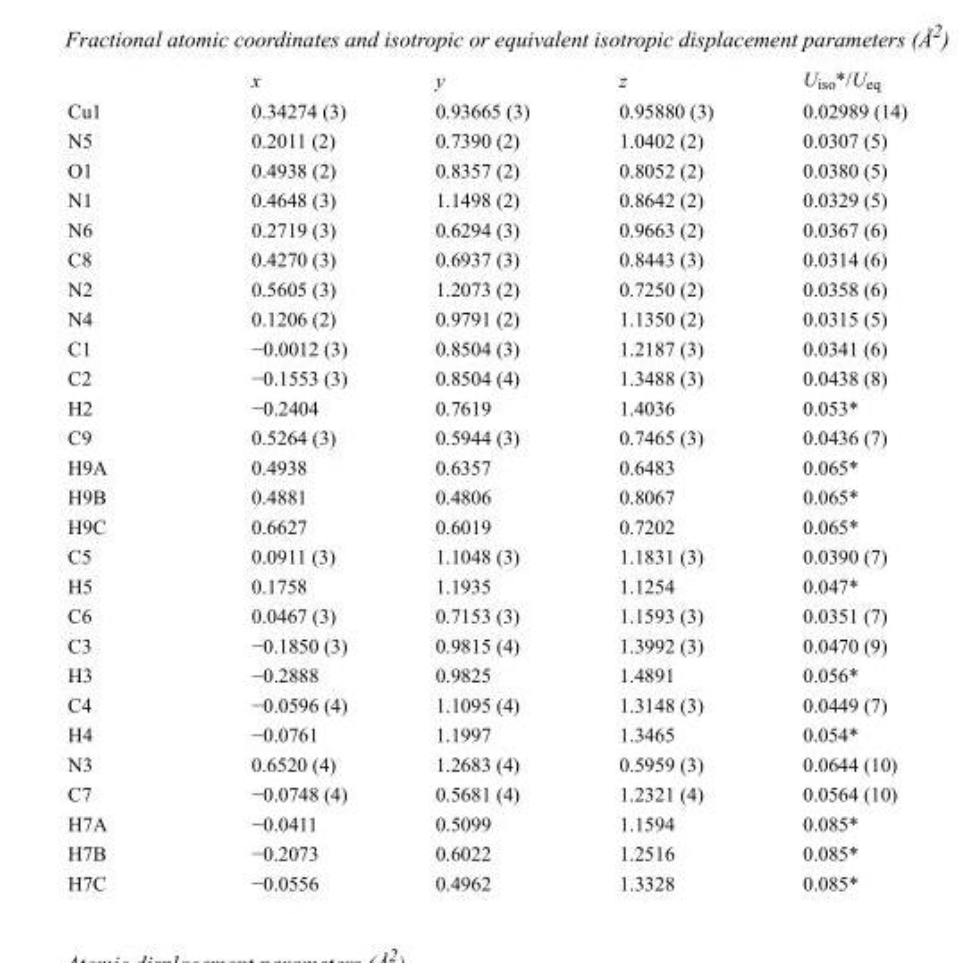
<table><thead><tr><td></td><td>x</td><td>y</td><td>z</td><td>U<sub>iso</sub>*/U<sub>eq</sub></td></tr></thead><tbody><tr><td>Cu1</td><td>0.34274 (3)</td><td>0.93665 (3)</td><td>0.95880 (3)</td><td>0.02989 (14)</td></tr><tr><td>N5</td><td>0.2011 (2)</td><td>0.7390 (2)</td><td>1.0402 (2)</td><td>0.0307 (5)</td></tr><tr><td>O1</td><td>0.4938 (2)</td><td>0.8357 (2)</td><td>0.8052 (2)</td><td>0.0380 (5)</td></tr><tr><td>N1</td><td>0.4648 (3)</td><td>1.1498 (2)</td><td>0.8642 (2)</td><td>0.0329 (5)</td></tr><tr><td>N6</td><td>0.2719 (3)</td><td>0.6294 (3)</td><td>0.9663 (2)</td><td>0.0367 (6)</td></tr><tr><td>C8</td><td>0.4270 (3)</td><td>0.6937 (3)</td><td>0.8443 (3)</td><td>0.0314 (6)</td></tr><tr><td>N2</td><td>0.5605 (3)</td><td>1.2073 (2)</td><td>0.7250 (2)</td><td>0.0358 (6)</td></tr><tr><td>N4</td><td>0.1206 (2)</td><td>0.9791 (2)</td><td>1.1350 (2)</td><td>0.0315 (5)</td></tr><tr><td>C1</td><td>−0.0012 (3)</td><td>0.8504 (3)</td><td>1.2187 (3)</td><td>0.0341 (6)</td></tr><tr><td>C2</td><td>−0.1553 (3)</td><td>0.8504 (4)</td><td>1.3488 (3)</td><td>0.0438 (8)</td></tr><tr><td>H2</td><td>−0.2404</td><td>0.7619</td><td>1.4036</td><td>0.053*</td></tr><tr><td>C9</td><td>0.5264 (3)</td><td>0.5944 (3)</td><td>0.7465 (3)</td><td>0.0436 (7)</td></tr><tr><td>H9A</td><td>0.4938</td><td>0.6357</td><td>0.6483</td><td>0.065*</td></tr><tr><td>H9B</td><td>0.4881</td><td>0.4806</td><td>0.8067</td><td>0.065*</td></tr><tr><td>H9C</td><td>0.6627</td><td>0.6019</td><td>0.7202</td><td>0.065*</td></tr><tr><td>C5</td><td>0.0911 (3)</td><td>1.1048 (3)</td><td>1.1831 (3)</td><td>0.0390 (7)</td></tr><tr><td>H5</td><td>0.1758</td><td>1.1935</td><td>1.1254</td><td>0.047*</td></tr><tr><td>C6</td><td>0.0467 (3)</td><td>0.7153 (3)</td><td>1.1593 (3)</td><td>0.0351 (7)</td></tr><tr><td>C3</td><td>−0.1850 (3)</td><td>0.9815 (4)</td><td>1.3992 (3)</td><td>0.0470 (9)</td></tr><tr><td>H3</td><td>−0.2888</td><td>0.9825</td><td>1.4891</td><td>0.056*</td></tr><tr><td>C4</td><td>−0.0596 (4)</td><td>1.1095 (4)</td><td>1.3148 (3)</td><td>0.0449 (7)</td></tr><tr><td>H4</td><td>−0.0761</td><td>1.1997</td><td>1.3465</td><td>0.054*</td></tr><tr><td>N3</td><td>0.6520 (4)</td><td>1.2683 (4)</td><td>0.5959 (3)</td><td>0.0644 (10)</td></tr><tr><td>C7</td><td>−0.0748 (4)</td><td>0.5681 (4)</td><td>1.2321 (4)</td><td>0.0564 (10)</td></tr><tr><td>H7A</td><td>−0.0411</td><td>0.5099</td><td>1.1594</td><td>0.085*</td></tr><tr><td>H7B</td><td>−0.2073</td><td>0.6022</td><td>1.2516</td><td>0.085*</td></tr><tr><td>H7C</td><td>−0.0556</td><td>0.4962</td><td>1.3328</td><td>0.085*</td></tr></tbody></table>